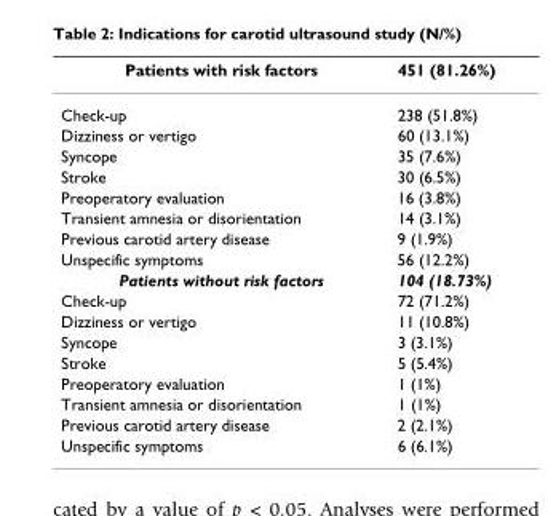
<table><thead><tr><td>Patients with risk factors</td><td>451 (81.26%)</td></tr></thead><tbody><tr><td>Check-up</td><td>238 (51.8%)</td></tr><tr><td>Dizziness or vertigo</td><td>60 (13.1%)</td></tr><tr><td>Syncope</td><td>35 (7.6%)</td></tr><tr><td>Stroke</td><td>30 (6.5%)</td></tr><tr><td>Preoperatory evaluation</td><td>16 (3.8%)</td></tr><tr><td>Transient amnesia or disorientation</td><td>14 (3.1%)</td></tr><tr><td>Previous carotid artery disease</td><td>9 (1.9%)</td></tr><tr><td>Unspecific symptoms</td><td>56 (12.2%)</td></tr><tr><td>Patients without risk factors</td><td>104 (18.73%)</td></tr><tr><td>Check-up</td><td>72 (71.2%)</td></tr><tr><td>Dizziness or vertigo</td><td>11 (10.8%)</td></tr><tr><td>Syncope</td><td>3 (3.1%)</td></tr><tr><td>Stroke</td><td>5 (5.4%)</td></tr><tr><td>Preoperatory evaluation</td><td>1 (1%)</td></tr><tr><td>Transient amnesia or disorientation</td><td>1 (1%)</td></tr><tr><td>Previous carotid artery disease</td><td>2 (2.1%)</td></tr><tr><td>Unspecific symptoms</td><td>6 (6.1%)</td></tr></tbody></table>